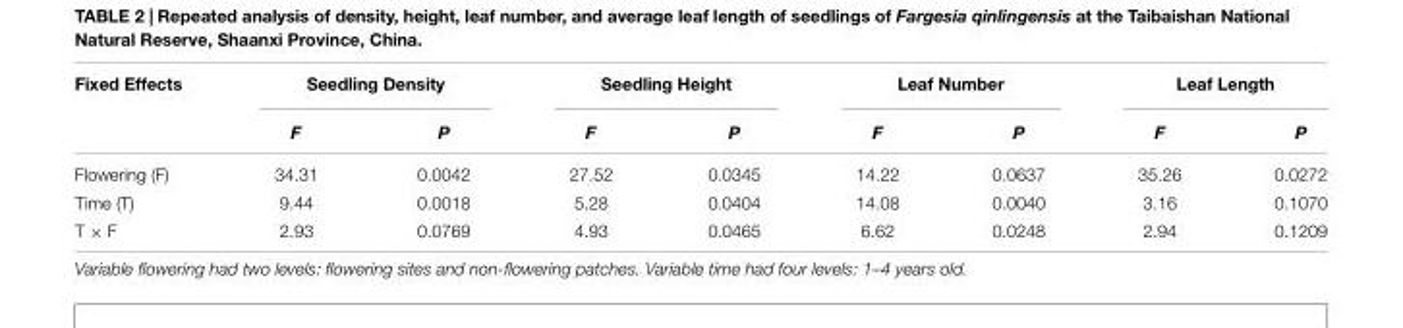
<table><thead><tr><td rowspan="2">Fixed Effects</td><td colspan="2">Seedling Density</td><td colspan="2">Seedling Height</td><td colspan="2">Leaf Number</td><td colspan="2">Leaf Length</td></tr><tr><td>F</td><td>P</td><td>F</td><td>P</td><td>F</td><td>P</td><td>F</td><td>P</td></tr></thead><tbody><tr><td>Flowering (F)</td><td>34.31</td><td>0.0042</td><td>27.52</td><td>0.0345</td><td>14.22</td><td>0.0637</td><td>35.26</td><td>0.0272</td></tr><tr><td>Time (T)</td><td>9.44</td><td>0.0018</td><td>5.28</td><td>0.0404</td><td>14.08</td><td>0.0040</td><td>3.16</td><td>0.1070</td></tr><tr><td>T × F</td><td>2.93</td><td>0.0769</td><td>4.93</td><td>0.0465</td><td>6.62</td><td>0.0248</td><td>2.94</td><td>0.1209</td></tr></tbody></table>